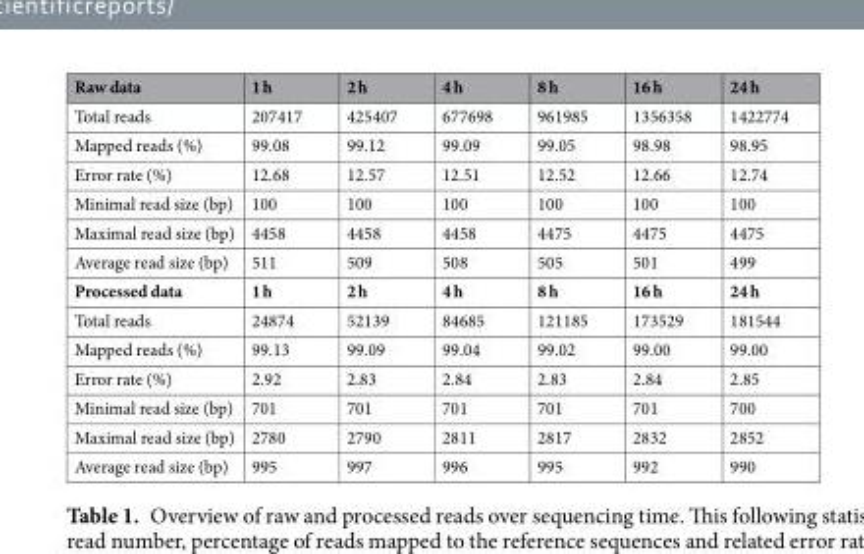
<table><thead><tr><td>Raw data</td><td>1 h</td><td>2 h</td><td>4 h</td><td>8 h</td><td>16 h</td><td>24 h</td></tr></thead><tbody><tr><td>Total reads</td><td>207417</td><td>425407</td><td>677698</td><td>961985</td><td>1356358</td><td>1422774</td></tr><tr><td>Mapped reads (%)</td><td>99.08</td><td>99.12</td><td>99.09</td><td>99.05</td><td>98.98</td><td>98.95</td></tr><tr><td>Error rate (%)</td><td>12.68</td><td>12.57</td><td>12.51</td><td>12.52</td><td>12.66</td><td>12.74</td></tr><tr><td>Minimal read size (bp)</td><td>100</td><td>100</td><td>100</td><td>100</td><td>100</td><td>100</td></tr><tr><td>Maximal read size (bp)</td><td>4458</td><td>4458</td><td>4458</td><td>4475</td><td>4475</td><td>4475</td></tr><tr><td>Average read size (bp)</td><td>511</td><td>509</td><td>508</td><td>505</td><td>501</td><td>499</td></tr><tr><td>Processed data</td><td>1 h</td><td>2 h</td><td>4 h</td><td>8 h</td><td>16 h</td><td>24 h</td></tr><tr><td>Total reads</td><td>24874</td><td>52139</td><td>84685</td><td>121185</td><td>173529</td><td>181544</td></tr><tr><td>Mapped reads (%)</td><td>99.13</td><td>99.09</td><td>99.04</td><td>99.02</td><td>99.00</td><td>99.00</td></tr><tr><td>Error rate (%)</td><td>2.92</td><td>2.83</td><td>2.84</td><td>2.83</td><td>2.84</td><td>2.85</td></tr><tr><td>Minimal read size (bp)</td><td>701</td><td>701</td><td>701</td><td>701</td><td>701</td><td>700</td></tr><tr><td>Maximal read size (bp)</td><td>2780</td><td>2790</td><td>2811</td><td>2817</td><td>2832</td><td>2852</td></tr><tr><td>Average read size (bp)</td><td>995</td><td>997</td><td>996</td><td>995</td><td>992</td><td>990</td></tr></tbody></table>